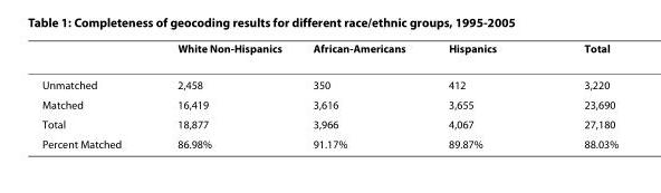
<table><thead><tr><td></td><td>White Non-Hispanics</td><td>African-Americans</td><td>Hispanics</td><td>Total</td></tr></thead><tbody><tr><td>Unmatched</td><td>2,458</td><td>350</td><td>412</td><td>3,220</td></tr><tr><td>Matched</td><td>16,419</td><td>3,616</td><td>3,655</td><td>23,690</td></tr><tr><td>Total</td><td>18,877</td><td>3,966</td><td>4,067</td><td>27,180</td></tr><tr><td>Percent Matched</td><td>86.98%</td><td>91.17%</td><td>89.87%</td><td>88.03%</td></tr></tbody></table>